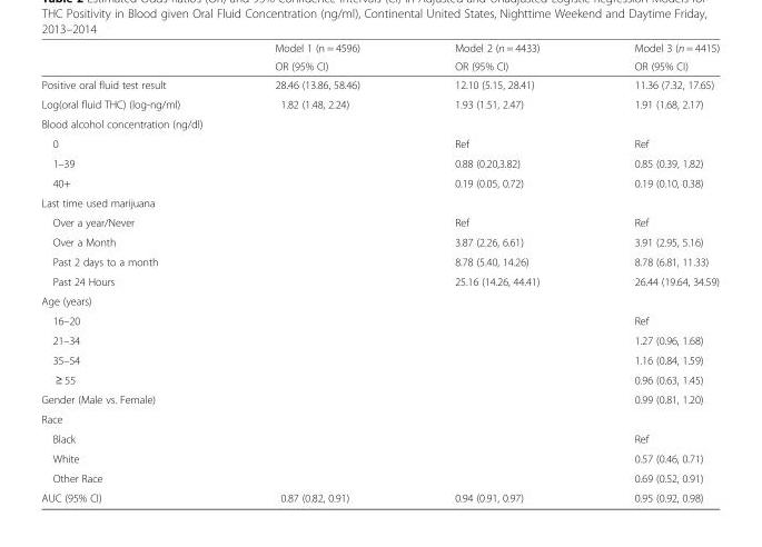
<table><thead><tr><td rowspan="2"></td><td rowspan="2">Model 1 (n = 4596) OR (95% CI)</td><td rowspan="2">Model 2 (n = 4433) OR (95% CI)</td><td rowspan="2">Model 3 (n = 4415) OR (95% CI)</td></tr><tr></tr></thead><tbody><tr><td>Positive oral fluid test result</td><td>28.46 (13.86, 58.46)</td><td>12.10 (5.15, 28.41)</td><td>11.36 (7.32, 17.65)</td></tr><tr><td>Log(oral fluid THC) (log-ng/ml)</td><td>1.82 (1.48, 2.24)</td><td>1.93 (1.51, 2.47)</td><td>1.91 (1.68, 2.17)</td></tr><tr><td colspan="4">Blood alcohol concentration (ng/dl)</td></tr><tr><td>0</td><td></td><td>Ref</td><td>Ref</td></tr><tr><td>1–39</td><td></td><td>0.88 (0.20,3.82)</td><td>0.85 (0.39, 1.82)</td></tr><tr><td>40+</td><td></td><td>0.19 (0.05, 0.72)</td><td>0.19 (0.10, 0.38)</td></tr><tr><td colspan="4">Last time used marijuana</td></tr><tr><td>Over a year/Never</td><td></td><td>Ref</td><td>Ref</td></tr><tr><td>Over a Month</td><td></td><td>3.87 (2.26, 6.61)</td><td>3.91 (2.95, 5.16)</td></tr><tr><td>Past 2 days to a month</td><td></td><td>8.78 (5.40, 14.26)</td><td>8.78 (6.81, 11.33)</td></tr><tr><td>Past 24 Hours</td><td></td><td>25.16 (14.26, 44.41)</td><td>26.44 (19.64, 34.59)</td></tr><tr><td colspan="4">Age (years)</td></tr><tr><td>16–20</td><td></td><td></td><td>Ref</td></tr><tr><td>21–34</td><td></td><td></td><td>1.27 (0.96, 1.68)</td></tr><tr><td>35–54</td><td></td><td></td><td>1.16 (0.84, 1.59)</td></tr><tr><td>≥ 55</td><td></td><td></td><td>0.96 (0.63, 1.45)</td></tr><tr><td>Gender (Male vs. Female)</td><td></td><td></td><td>0.99 (0.81, 1.20)</td></tr><tr><td colspan="4">Race</td></tr><tr><td>Black</td><td></td><td></td><td>Ref</td></tr><tr><td>White</td><td></td><td></td><td>0.57 (0.46, 0.71)</td></tr><tr><td>Other Race</td><td></td><td></td><td>0.69 (0.52, 0.91)</td></tr><tr><td>AUC (95% CI)</td><td>0.87 (0.82, 0.91)</td><td>0.94 (0.91, 0.97)</td><td>0.95 (0.92, 0.98)</td></tr></tbody></table>